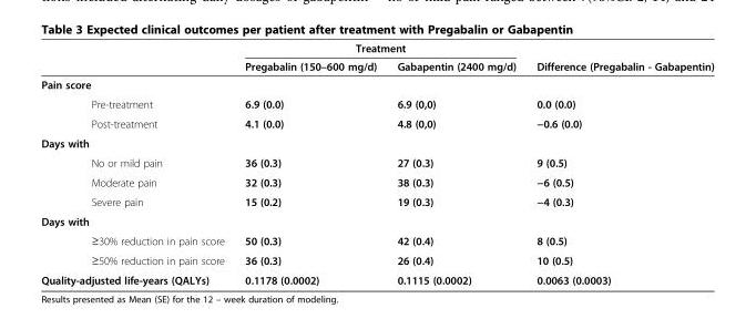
<table><thead><tr><td rowspan="2"></td><td colspan="2">Treatment</td><td rowspan="2">Difference (Pregabalin - Gabapentin)</td></tr><tr><td>Pregabalin (150–600 mg/d)</td><td>Gabapentin (2400 mg/d)</td></tr></thead><tbody><tr><td colspan="4">Pain score</td></tr><tr><td>Pre-treatment</td><td>6.9 (0.0)</td><td>6.9 (0,0)</td><td>0.0 (0.0)</td></tr><tr><td>Post-treatment</td><td>4.1 (0.0)</td><td>4.8 (0,0)</td><td>−0.6 (0.0)</td></tr><tr><td colspan="4">Days with</td></tr><tr><td>No or mild pain</td><td>36 (0.3)</td><td>27 (0.3)</td><td>9 (0.5)</td></tr><tr><td>Moderate pain</td><td>32 (0.3)</td><td>38 (0.3)</td><td>−6 (0.5)</td></tr><tr><td>Severe pain</td><td>15 (0.2)</td><td>19 (0.3)</td><td>−4 (0.3)</td></tr><tr><td colspan="4">Days with</td></tr><tr><td>≥30% reduction in pain score</td><td>50 (0.3)</td><td>42 (0.4)</td><td>8 (0.5)</td></tr><tr><td>≥50% reduction in pain score</td><td>36 (0.3)</td><td>26 (0.4)</td><td>10 (0.5)</td></tr><tr><td>Quality-adjusted life-years (QALYs)</td><td>0.1178 (0.0002)</td><td>0.1115 (0.0002)</td><td>0.0063 (0.0003)</td></tr></tbody></table>